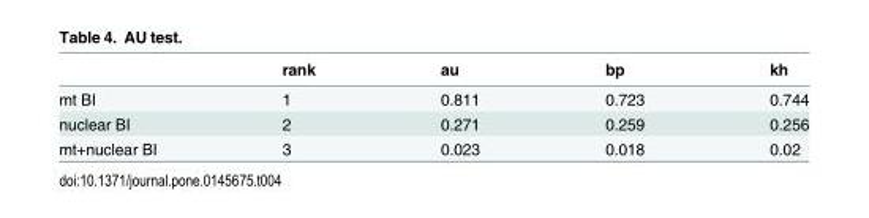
<table><thead><tr><td></td><td>rank</td><td>au</td><td>bp</td><td>kh</td></tr></thead><tbody><tr><td>mt BI</td><td>1</td><td>0.811</td><td>0.723</td><td>0.744</td></tr><tr><td>nuclear BI</td><td>2</td><td>0.271</td><td>0.259</td><td>0.256</td></tr><tr><td>mt+nuclear BI</td><td>3</td><td>0.023</td><td>0.018</td><td>0.02</td></tr></tbody></table>